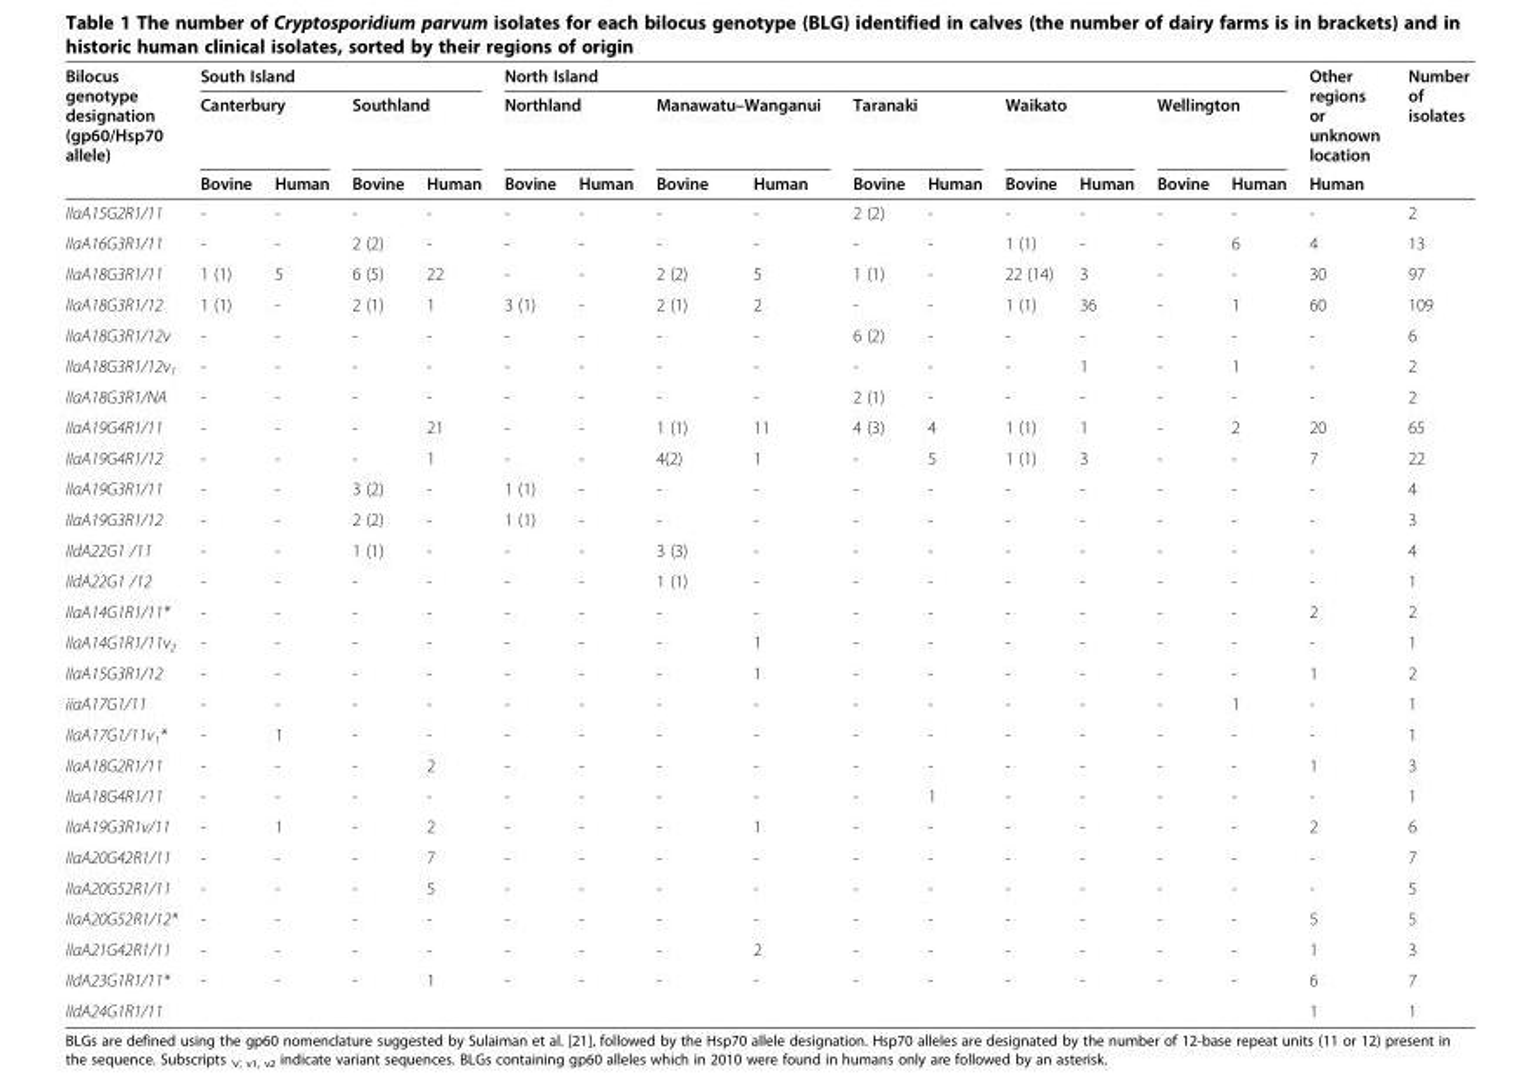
<table><thead><tr><td rowspan="3">Bilocus genotype designation (gp60/Hsp70 allele)</td><td colspan="4">South Island</td><td colspan="10">North Island</td><td rowspan="3">Other regions or unknown location Human</td><td rowspan="3">Number of isolates</td></tr><tr><td colspan="2">Canterbury</td><td colspan="2">Southland</td><td colspan="2">Northland</td><td colspan="2">Manawatu–Wanganui</td><td colspan="2">Taranaki</td><td colspan="2">Waikato</td><td colspan="2">Wellington</td></tr><tr><td>Bovine</td><td>Human</td><td>Bovine</td><td>Human</td><td>Bovine</td><td>Human</td><td>Bovine</td><td>Human</td><td>Bovine</td><td>Human</td><td>Bovine</td><td>Human</td><td>Bovine</td><td>Human</td></tr></thead><tbody><tr><td>IIaA15G2R1/11</td><td>-</td><td>-</td><td>-</td><td>-</td><td>-</td><td>-</td><td>-</td><td>-</td><td>2 (2)</td><td>-</td><td>-</td><td>-</td><td>-</td><td>-</td><td>-</td><td>2</td></tr><tr><td>IIaA16G3R1/11</td><td>-</td><td>-</td><td>2 (2)</td><td>-</td><td>-</td><td>-</td><td>-</td><td>-</td><td>-</td><td>-</td><td>1 (1)</td><td>-</td><td>-</td><td>6</td><td>4</td><td>13</td></tr><tr><td>IIaA18G3R1/11</td><td>1 (1)</td><td>5</td><td>6 (5)</td><td>22</td><td>-</td><td>-</td><td>2 (2)</td><td>5</td><td>1 (1)</td><td>-</td><td>22 (14)</td><td>3</td><td>-</td><td>-</td><td>30</td><td>97</td></tr><tr><td>IIaA18G3R1/12</td><td>1 (1)</td><td>-</td><td>2 (1)</td><td>1</td><td>3 (1)</td><td>-</td><td>2 (1)</td><td>2</td><td>-</td><td>-</td><td>1 (1)</td><td>36</td><td>-</td><td>1</td><td>60</td><td>109</td></tr><tr><td>IIaA18G3R1/12v</td><td>-</td><td>-</td><td>-</td><td>-</td><td>-</td><td>-</td><td>-</td><td>-</td><td>6 (2)</td><td>-</td><td>-</td><td>-</td><td>-</td><td>-</td><td>-</td><td>6</td></tr><tr><td>IIaA18G3R1/12v<sub>1</sub></td><td>-</td><td>-</td><td>-</td><td>-</td><td>-</td><td>-</td><td>-</td><td>-</td><td>-</td><td>-</td><td>-</td><td>1</td><td>-</td><td>1</td><td>-</td><td>2</td></tr><tr><td>IIaA18G3R1/NA</td><td>-</td><td>-</td><td>-</td><td>-</td><td>-</td><td>-</td><td>-</td><td>-</td><td>2 (1)</td><td>-</td><td>-</td><td>-</td><td>-</td><td>-</td><td>-</td><td>2</td></tr><tr><td>IIaA19G4R1/11</td><td>-</td><td>-</td><td>-</td><td>21</td><td>-</td><td>-</td><td>1 (1)</td><td>11</td><td>4 (3)</td><td>4</td><td>1 (1)</td><td>1</td><td>-</td><td>2</td><td>20</td><td>65</td></tr><tr><td>IIaA19G4R1/12</td><td>-</td><td>-</td><td>-</td><td>1</td><td>-</td><td>-</td><td>4(2)</td><td>1</td><td>-</td><td>5</td><td>1 (1)</td><td>3</td><td>-</td><td>-</td><td>7</td><td>22</td></tr><tr><td>IIaA19G3R1/11</td><td>-</td><td>-</td><td>3 (2)</td><td>-</td><td>1 (1)</td><td>-</td><td>-</td><td>-</td><td>-</td><td>-</td><td>-</td><td>-</td><td>-</td><td>-</td><td>-</td><td>4</td></tr><tr><td>IIaA19G3R1/12</td><td>-</td><td>-</td><td>2 (2)</td><td>-</td><td>1 (1)</td><td>-</td><td>-</td><td>-</td><td>-</td><td>-</td><td>-</td><td>-</td><td>-</td><td>-</td><td>-</td><td>3</td></tr><tr><td>IIdA22G1 /11</td><td>-</td><td>-</td><td>1 (1)</td><td>-</td><td>-</td><td>-</td><td>3 (3)</td><td>-</td><td>-</td><td>-</td><td>-</td><td>-</td><td>-</td><td>-</td><td>-</td><td>4</td></tr><tr><td>IIdA22G1 /12</td><td>-</td><td>-</td><td>-</td><td>-</td><td>-</td><td>-</td><td>1 (1)</td><td>-</td><td>-</td><td>-</td><td>-</td><td>-</td><td>-</td><td>-</td><td>-</td><td>1</td></tr><tr><td>IIaA14G1R1/11*</td><td>-</td><td>-</td><td>-</td><td>-</td><td>-</td><td>-</td><td>-</td><td>-</td><td>-</td><td>-</td><td>-</td><td>-</td><td>-</td><td>-</td><td>2</td><td>2</td></tr><tr><td>IIaA14G1R1/11v<sub>2</sub></td><td>-</td><td>-</td><td>-</td><td>-</td><td>-</td><td>-</td><td>-</td><td>1</td><td>-</td><td>-</td><td>-</td><td>-</td><td>-</td><td>-</td><td>-</td><td>1</td></tr><tr><td>IIaA15G3R1/12</td><td>-</td><td>-</td><td>-</td><td>-</td><td>-</td><td>-</td><td>-</td><td>1</td><td>-</td><td>-</td><td>-</td><td>-</td><td>-</td><td>-</td><td>1</td><td>2</td></tr><tr><td>iiaA17G1/11</td><td>-</td><td>-</td><td>-</td><td>-</td><td>-</td><td>-</td><td>-</td><td>-</td><td>-</td><td>-</td><td>-</td><td>-</td><td>-</td><td>1</td><td>-</td><td>1</td></tr><tr><td>IIaA17G1/11v<sub>1</sub>*</td><td>-</td><td>1</td><td>-</td><td>-</td><td>-</td><td>-</td><td>-</td><td>-</td><td>-</td><td>-</td><td>-</td><td>-</td><td>-</td><td>-</td><td>-</td><td>1</td></tr><tr><td>IIaA18G2R1/11</td><td>-</td><td>-</td><td>-</td><td>2</td><td>-</td><td>-</td><td>-</td><td>-</td><td>-</td><td>-</td><td>-</td><td>-</td><td>-</td><td>-</td><td>1</td><td>3</td></tr><tr><td>IIaA18G4R1/11</td><td>-</td><td>-</td><td>-</td><td>-</td><td>-</td><td>-</td><td>-</td><td>-</td><td>-</td><td>1</td><td>-</td><td>-</td><td>-</td><td>-</td><td>-</td><td>1</td></tr><tr><td>IIaA19G3R1v/11</td><td>-</td><td>1</td><td>-</td><td>2</td><td>-</td><td>-</td><td>-</td><td>1</td><td>-</td><td>-</td><td>-</td><td>-</td><td>-</td><td>-</td><td>2</td><td>6</td></tr><tr><td>IIaA20G42R1/11</td><td>-</td><td>-</td><td>-</td><td>7</td><td>-</td><td>-</td><td>-</td><td>-</td><td>-</td><td>-</td><td>-</td><td>-</td><td>-</td><td>-</td><td>-</td><td>7</td></tr><tr><td>IIaA20G52R1/11</td><td>-</td><td>-</td><td>-</td><td>5</td><td>-</td><td>-</td><td>-</td><td>-</td><td>-</td><td>-</td><td>-</td><td>-</td><td>-</td><td>-</td><td>-</td><td>5</td></tr><tr><td>IIaA20G52R1/12*</td><td>-</td><td>-</td><td>-</td><td>-</td><td>-</td><td>-</td><td>-</td><td>-</td><td>-</td><td>-</td><td>-</td><td>-</td><td>-</td><td>-</td><td>5</td><td>5</td></tr><tr><td>IIaA21G42R1/11</td><td>-</td><td>-</td><td>-</td><td>-</td><td>-</td><td>-</td><td>-</td><td>2</td><td>-</td><td>-</td><td>-</td><td>-</td><td>-</td><td>-</td><td>1</td><td>3</td></tr><tr><td>IIdA23G1R1/11*</td><td>-</td><td>-</td><td>-</td><td>1</td><td>-</td><td>-</td><td>-</td><td>-</td><td>-</td><td>-</td><td>-</td><td>-</td><td>-</td><td>-</td><td>6</td><td>7</td></tr><tr><td>IIdA24G1R1/11</td><td></td><td></td><td></td><td></td><td></td><td></td><td></td><td></td><td></td><td></td><td></td><td></td><td></td><td></td><td>1</td><td>1</td></tr></tbody></table>